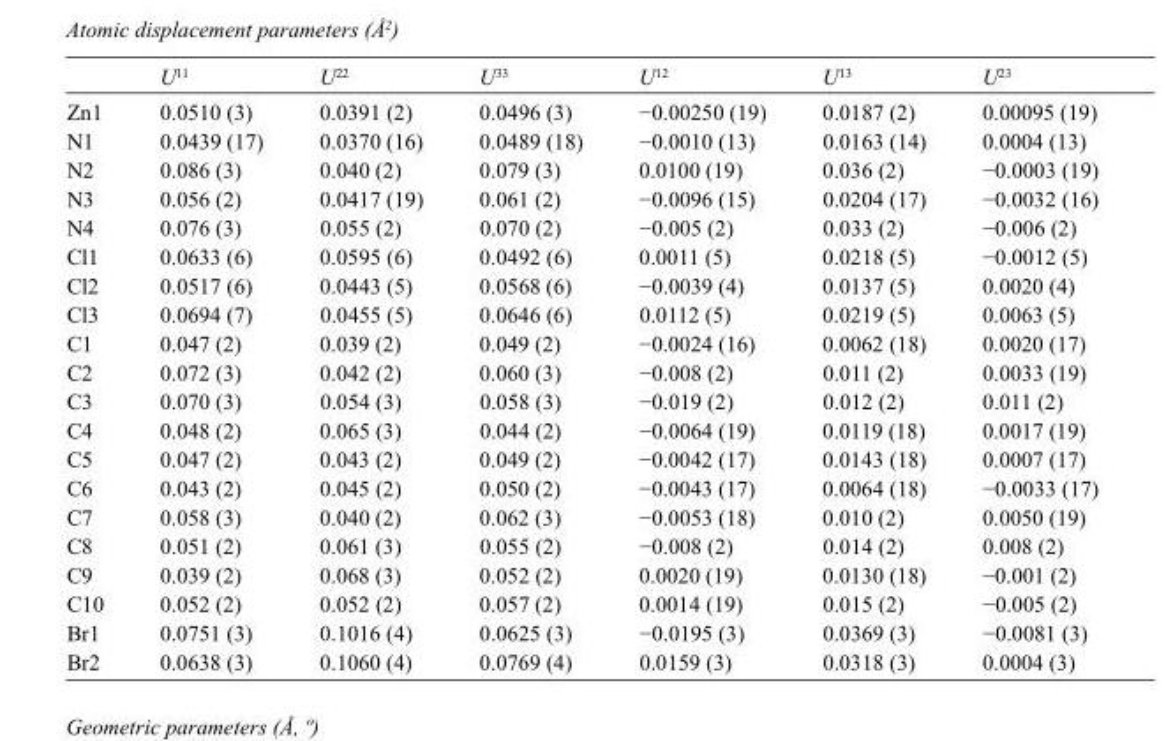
<table><thead><tr><td></td><td>U<sup>11</sup></td><td>U<sup>22</sup></td><td>U<sup>33</sup></td><td>U<sup>12</sup></td><td>U<sup>13</sup></td><td>U<sup>23</sup></td></tr></thead><tbody><tr><td>Zn1</td><td>0.0510 (3)</td><td>0.0391 (2)</td><td>0.0496 (3)</td><td>−0.00250 (19)</td><td>0.0187 (2)</td><td>0.00095 (19)</td></tr><tr><td>N1</td><td>0.0439 (17)</td><td>0.0370 (16)</td><td>0.0489 (18)</td><td>−0.0010 (13)</td><td>0.0163 (14)</td><td>0.0004 (13)</td></tr><tr><td>N2</td><td>0.086 (3)</td><td>0.040 (2)</td><td>0.079 (3)</td><td>0.0100 (19)</td><td>0.036 (2)</td><td>−0.0003 (19)</td></tr><tr><td>N3</td><td>0.056 (2)</td><td>0.0417 (19)</td><td>0.061 (2)</td><td>−0.0096 (15)</td><td>0.0204 (17)</td><td>−0.0032 (16)</td></tr><tr><td>N4</td><td>0.076 (3)</td><td>0.055 (2)</td><td>0.070 (2)</td><td>−0.005 (2)</td><td>0.033 (2)</td><td>−0.006 (2)</td></tr><tr><td>Cl1</td><td>0.0633 (6)</td><td>0.0595 (6)</td><td>0.0492 (6)</td><td>0.0011 (5)</td><td>0.0218 (5)</td><td>−0.0012 (5)</td></tr><tr><td>Cl2</td><td>0.0517 (6)</td><td>0.0443 (5)</td><td>0.0568 (6)</td><td>−0.0039 (4)</td><td>0.0137 (5)</td><td>0.0020 (4)</td></tr><tr><td>Cl3</td><td>0.0694 (7)</td><td>0.0455 (5)</td><td>0.0646 (6)</td><td>0.0112 (5)</td><td>0.0219 (5)</td><td>0.0063 (5)</td></tr><tr><td>C1</td><td>0.047 (2)</td><td>0.039 (2)</td><td>0.049 (2)</td><td>−0.0024 (16)</td><td>0.0062 (18)</td><td>0.0020 (17)</td></tr><tr><td>C2</td><td>0.072 (3)</td><td>0.042 (2)</td><td>0.060 (3)</td><td>−0.008 (2)</td><td>0.011 (2)</td><td>0.0033 (19)</td></tr><tr><td>C3</td><td>0.070 (3)</td><td>0.054 (3)</td><td>0.058 (3)</td><td>−0.019 (2)</td><td>0.012 (2)</td><td>0.011 (2)</td></tr><tr><td>C4</td><td>0.048 (2)</td><td>0.065 (3)</td><td>0.044 (2)</td><td>−0.0064 (19)</td><td>0.0119 (18)</td><td>0.0017 (19)</td></tr><tr><td>C5</td><td>0.047 (2)</td><td>0.043 (2)</td><td>0.049 (2)</td><td>−0.0042 (17)</td><td>0.0143 (18)</td><td>0.0007 (17)</td></tr><tr><td>C6</td><td>0.043 (2)</td><td>0.045 (2)</td><td>0.050 (2)</td><td>−0.0043 (17)</td><td>0.0064 (18)</td><td>−0.0033 (17)</td></tr><tr><td>C7</td><td>0.058 (3)</td><td>0.040 (2)</td><td>0.062 (3)</td><td>−0.0053 (18)</td><td>0.010 (2)</td><td>0.0050 (19)</td></tr><tr><td>C8</td><td>0.051 (2)</td><td>0.061 (3)</td><td>0.055 (2)</td><td>−0.008 (2)</td><td>0.014 (2)</td><td>0.008 (2)</td></tr><tr><td>C9</td><td>0.039 (2)</td><td>0.068 (3)</td><td>0.052 (2)</td><td>0.0020 (19)</td><td>0.0130 (18)</td><td>−0.001 (2)</td></tr><tr><td>C10</td><td>0.052 (2)</td><td>0.052 (2)</td><td>0.057 (2)</td><td>0.0014 (19)</td><td>0.015 (2)</td><td>−0.005 (2)</td></tr><tr><td>Br1</td><td>0.0751 (3)</td><td>0.1016 (4)</td><td>0.0625 (3)</td><td>−0.0195 (3)</td><td>0.0369 (3)</td><td>−0.0081 (3)</td></tr><tr><td>Br2</td><td>0.0638 (3)</td><td>0.1060 (4)</td><td>0.0769 (4)</td><td>0.0159 (3)</td><td>0.0318 (3)</td><td>0.0004 (3)</td></tr></tbody></table>